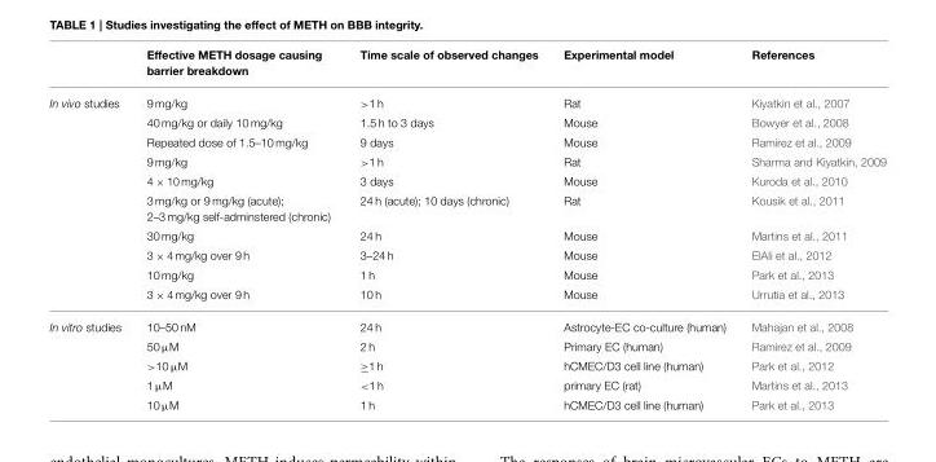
<table><thead><tr><td></td><td>Effective METH dosage causing barrier breakdown</td><td>Time scale of observed changes</td><td>Experimental model</td><td>References</td></tr></thead><tbody><tr><td rowspan="10">In vivo studies</td><td>9 mg/kg</td><td>&gt;1 h</td><td>Rat</td><td>Kiyatkin et al., 2007</td></tr><tr><td>40 mg/kg or daily 10 mg/kg</td><td>1.5 h to 3 days</td><td>Mouse</td><td>Bowyer et al., 2008</td></tr><tr><td>Repeated dose of 1.5–10 mg/kg</td><td>9 days</td><td>Mouse</td><td>Ramirez et al., 2009</td></tr><tr><td>9 mg/kg</td><td>&gt;1 h</td><td>Rat</td><td>Sharma and Kiyatkin, 2009</td></tr><tr><td>4 × 10 mg/kg</td><td>3 days</td><td>Mouse</td><td>Kuroda et al., 2010</td></tr><tr><td>3 mg/kg or 9 mg/kg (acute); 2–3 mg/kg self-adminstered (chronic)</td><td>24 h (acute); 10 days (chronic)</td><td>Rat</td><td>Kousik et al., 2011</td></tr><tr><td>30 mg/kg</td><td>24 h</td><td>Mouse</td><td>Martins et al., 2011</td></tr><tr><td>3 × 4 mg/kg over 9 h</td><td>3–24 h</td><td>Mouse</td><td>ElAli et al., 2012</td></tr><tr><td>10 mg/kg</td><td>1 h</td><td>Mouse</td><td>Park et al., 2013</td></tr><tr><td>3 × 4 mg/kg over 9 h</td><td>10 h</td><td>Mouse</td><td>Urrutia et al., 2013</td></tr><tr><td rowspan="5">In vitro studies</td><td>10–50 nM</td><td>24 h</td><td>Astrocyte-EC co-culture (human)</td><td>Mahajan et al., 2008</td></tr><tr><td>50 µM</td><td>2 h</td><td>Primary EC (human)</td><td>Ramirez et al., 2009</td></tr><tr><td>&gt;10 µM</td><td>≥1 h</td><td>hCMEC/D3 cell line (human)</td><td>Park et al., 2012</td></tr><tr><td>1 µM</td><td>&lt;1 h</td><td>primary EC (rat)</td><td>Martins et al., 2013</td></tr><tr><td>10 µM</td><td>1 h</td><td>hCMEC/D3 cell line (human)</td><td>Park et al., 2013</td></tr></tbody></table>